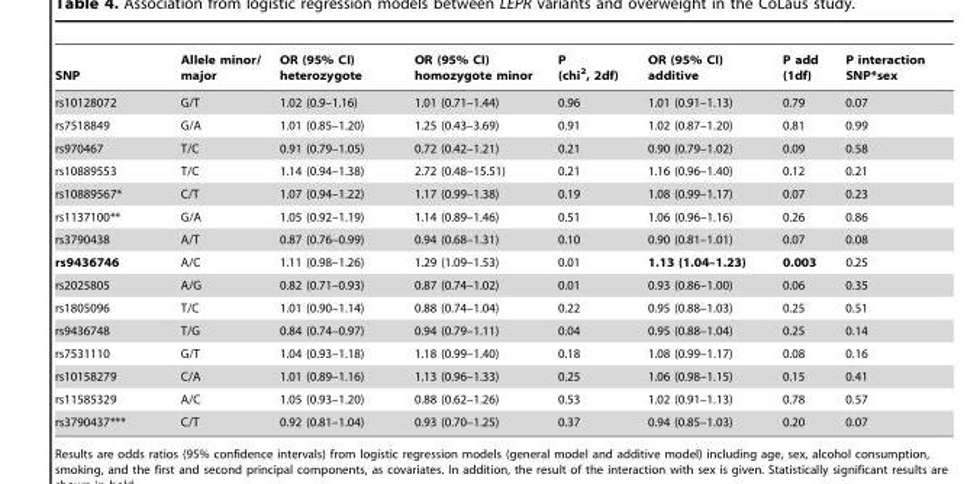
<table><thead><tr><td>SNP</td><td>Allele minor/ major</td><td>OR (95% CI) heterozygote</td><td>OR (95% CI) homozygote minor</td><td>P (chi<sup>2</sup>, 2df)</td><td>OR (95% CI) additive</td><td>P add (1df)</td><td>P interaction SNP*sex</td></tr></thead><tbody><tr><td>rs10128072</td><td>G/T</td><td>1.02 (0.9–1.16)</td><td>1.01 (0.71–1.44)</td><td>0.96</td><td>1.01 (0.91–1.13)</td><td>0.79</td><td>0.07</td></tr><tr><td>rs7518849</td><td>G/A</td><td>1.01 (0.85–1.20)</td><td>1.25 (0.43–3.69)</td><td>0.91</td><td>1.02 (0.87–1.20)</td><td>0.81</td><td>0.99</td></tr><tr><td>rs970467</td><td>T/C</td><td>0.91 (0.79–1.05)</td><td>0.72 (0.42–1.21)</td><td>0.21</td><td>0.90 (0.79–1.02)</td><td>0.09</td><td>0.58</td></tr><tr><td>rs10889553</td><td>T/C</td><td>1.14 (0.94–1.38)</td><td>2.72 (0.48–15.51)</td><td>0.21</td><td>1.16 (0.96–1.40)</td><td>0.12</td><td>0.21</td></tr><tr><td>rs10889567*</td><td>C/T</td><td>1.07 (0.94–1.22)</td><td>1.17 (0.99–1.38)</td><td>0.19</td><td>1.08 (0.99–1.17)</td><td>0.07</td><td>0.23</td></tr><tr><td>rs1137100**</td><td>G/A</td><td>1.05 (0.92–1.19)</td><td>1.14 (0.89–1.46)</td><td>0.51</td><td>1.06 (0.96–1.16)</td><td>0.26</td><td>0.86</td></tr><tr><td>rs3790438</td><td>A/T</td><td>0.87 (0.76–0.99)</td><td>0.94 (0.68–1.31)</td><td>0.10</td><td>0.90 (0.81–1.01)</td><td>0.07</td><td>0.08</td></tr><tr><td>rs9436746</td><td>A/C</td><td>1.11 (0.98–1.26)</td><td>1.29 (1.09–1.53)</td><td>0.01</td><td>1.13 (1.04–1.23)</td><td>0.003</td><td>0.25</td></tr><tr><td>rs2025805</td><td>A/G</td><td>0.82 (0.71–0.93)</td><td>0.87 (0.74–1.02)</td><td>0.01</td><td>0.93 (0.86–1.00)</td><td>0.06</td><td>0.35</td></tr><tr><td>rs1805096</td><td>T/C</td><td>1.01 (0.90–1.14)</td><td>0.88 (0.74–1.04)</td><td>0.22</td><td>0.95 (0.88–1.03)</td><td>0.25</td><td>0.51</td></tr><tr><td>rs9436748</td><td>T/G</td><td>0.84 (0.74–0.97)</td><td>0.94 (0.79–1.11)</td><td>0.04</td><td>0.95 (0.88–1.04)</td><td>0.25</td><td>0.14</td></tr><tr><td>rs7531110</td><td>G/T</td><td>1.04 (0.93–1.18)</td><td>1.18 (0.99–1.40)</td><td>0.18</td><td>1.08 (0.99–1.17)</td><td>0.08</td><td>0.16</td></tr><tr><td>rs10158279</td><td>C/A</td><td>1.01 (0.89–1.16)</td><td>1.13 (0.96–1.33)</td><td>0.25</td><td>1.06 (0.98–1.15)</td><td>0.15</td><td>0.41</td></tr><tr><td>rs11585329</td><td>A/C</td><td>1.05 (0.93–1.20)</td><td>0.88 (0.62–1.26)</td><td>0.53</td><td>1.02 (0.91–1.13)</td><td>0.78</td><td>0.57</td></tr><tr><td>rs3790437***</td><td>C/T</td><td>0.92 (0.81–1.04)</td><td>0.93 (0.70–1.25)</td><td>0.37</td><td>0.94 (0.85–1.03)</td><td>0.20</td><td>0.07</td></tr></tbody></table>